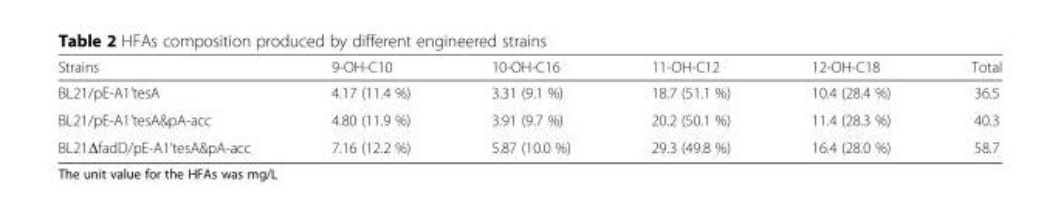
<table><thead><tr><td>Strains</td><td>9-OH-C10</td><td>10-OH-C16</td><td>11-OH-C12</td><td>12-OH-C18</td><td>Total</td></tr></thead><tbody><tr><td>BL21/pE-A1’tesA</td><td>4.17 (11.4 %)</td><td>3.31 (9.1 %)</td><td>18.7 (51.1 %)</td><td>10.4 (28.4 %)</td><td>36.5</td></tr><tr><td>BL21/pE-A1’tesA&amp;pA-acc</td><td>4.80 (11.9 %)</td><td>3.91 (9.7 %)</td><td>20.2 (50.1 %)</td><td>11.4 (28.3 %)</td><td>40.3</td></tr><tr><td>BL21ΔfadD/pE-A1’tesA&amp;pA-acc</td><td>7.16 (12.2 %)</td><td>5.87 (10.0 %)</td><td>29.3 (49.8 %)</td><td>16.4 (28.0 %)</td><td>58.7</td></tr></tbody></table>